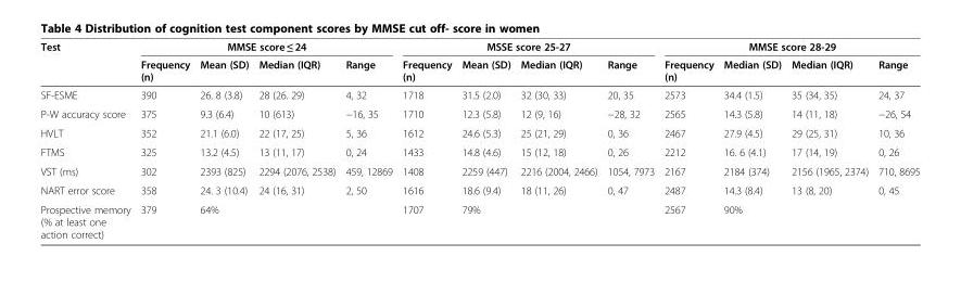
<table><thead><tr><td rowspan="2">Test</td><td colspan="4">MMSE score ≤ 24</td><td colspan="4">MSSE score 25-27</td><td colspan="4">MMSE score 28-29</td></tr><tr><td>Frequency (n)</td><td>Mean (SD)</td><td>Median (IQR)</td><td>Range</td><td>Frequency (n)</td><td>Mean (SD)</td><td>Median (IQR)</td><td>Range</td><td>Frequency (n)</td><td>Median (SD)</td><td>Median (IQR)</td><td>Range</td></tr></thead><tbody><tr><td>SF-ESME</td><td>390</td><td>26. 8 (3.8)</td><td>28 (26. 29)</td><td>4, 32</td><td>1718</td><td>31.5 (2.0)</td><td>32 (30, 33)</td><td>20, 35</td><td>2573</td><td>34.4 (1.5)</td><td>35 (34, 35)</td><td>24, 37</td></tr><tr><td>P-W accuracy score</td><td>375</td><td>9.3 (6.4)</td><td>10 (613)</td><td>−16, 35</td><td>1710</td><td>12.3 (5.8)</td><td>12 (9, 16)</td><td>−28, 32</td><td>2565</td><td>14.3 (5.8)</td><td>14 (11, 18)</td><td>−26, 54</td></tr><tr><td>HVLT</td><td>352</td><td>21.1 (6.0)</td><td>22 (17, 25)</td><td>5, 36</td><td>1612</td><td>24.6 (5.3)</td><td>25 (21, 29)</td><td>0, 36</td><td>2467</td><td>27.9 (4.5)</td><td>29 (25, 31)</td><td>10, 36</td></tr><tr><td>FTMS</td><td>325</td><td>13.2 (4.5)</td><td>13 (11, 17)</td><td>0, 24</td><td>1433</td><td>14.8 (4.6)</td><td>15 (12, 18)</td><td>0, 26</td><td>2212</td><td>16. 6 (4.1)</td><td>17 (14, 19)</td><td>0, 26</td></tr><tr><td>VST (ms)</td><td>302</td><td>2393 (825)</td><td>2294 (2076, 2538)</td><td>459, 12869</td><td>1408</td><td>2259 (447)</td><td>2216 (2004, 2466)</td><td>1054, 7973</td><td>2167</td><td>2184 (374)</td><td>2156 (1965, 2374)</td><td>710, 8695</td></tr><tr><td>NART error score</td><td>358</td><td>24. 3 (10.4)</td><td>24 (16, 31)</td><td>2, 50</td><td>1616</td><td>18.6 (9.4)</td><td>18 (11, 26)</td><td>0, 47</td><td>2487</td><td>14.3 (8.4)</td><td>13 (8, 20)</td><td>0, 45</td></tr><tr><td>Prospective memory (% at least one action correct)</td><td>379</td><td colspan="3">64%</td><td>1707</td><td colspan="3">79%</td><td>2567</td><td colspan="3">90%</td></tr></tbody></table>